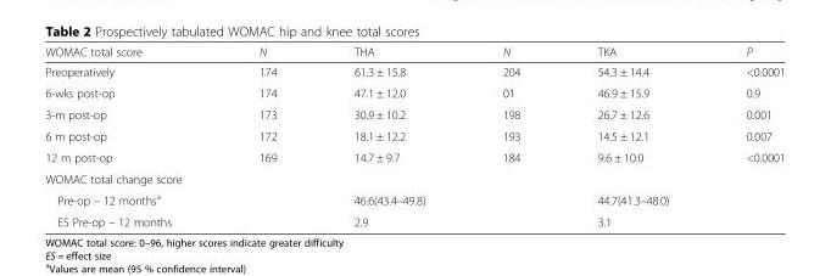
<table><thead><tr><td>WOMAC total score</td><td>N</td><td>THA</td><td>N</td><td>TKA</td><td>P</td></tr></thead><tbody><tr><td>Preoperatively</td><td>174</td><td>61.3 ± 15.8</td><td>204</td><td>54.3 ± 14.4</td><td>&lt;0.0001</td></tr><tr><td>6-wks post-op</td><td>174</td><td>47.1 ± 12.0</td><td>01</td><td>46.9 ± 15.9</td><td>0.9</td></tr><tr><td>3-m post-op</td><td>173</td><td>30.9 ± 10.2</td><td>198</td><td>26.7 ± 12.6</td><td>0.001</td></tr><tr><td>6 m post-op</td><td>172</td><td>18.1 ± 12.2</td><td>193</td><td>14.5 ± 12.1</td><td>0.007</td></tr><tr><td>12 m post-op</td><td>169</td><td>14.7 ± 9.7</td><td>184</td><td>9.6 ± 10.0</td><td>&lt;0.0001</td></tr><tr><td colspan="6">WOMAC total change score</td></tr><tr><td>Pre-op – 12 months<sup>a</sup></td><td></td><td>46.6(43.4–49.8)</td><td></td><td>44.7(41.3–48.0)</td><td></td></tr><tr><td>ES Pre-op – 12 months</td><td></td><td>2.9</td><td></td><td>3.1</td><td></td></tr></tbody></table>